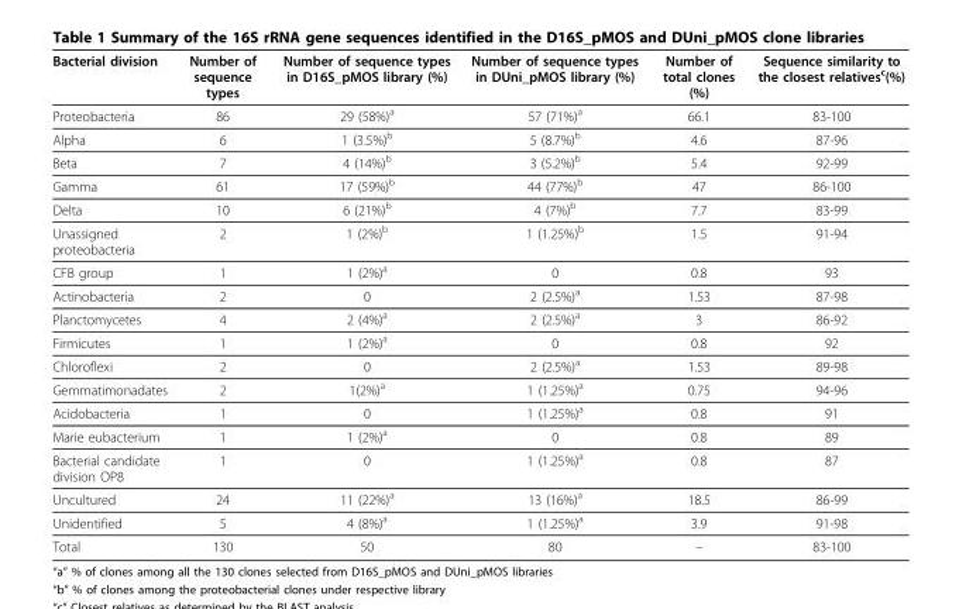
<table><thead><tr><td>Bacterial division</td><td>Number of sequence types</td><td>Number of sequence types in D16S_pMOS library (%)</td><td>Number of sequence types in DUni_pMOS library (%)</td><td>Number of total clones (%)</td><td>Sequence similarity to the closest relatives<sup>c</sup>(%)</td></tr></thead><tbody><tr><td>Proteobacteria</td><td>86</td><td>29 (58%)<sup>a</sup></td><td>57 (71%)<sup>a</sup></td><td>66.1</td><td>83-100</td></tr><tr><td>Alpha</td><td>6</td><td>1 (3.5%)<sup>b</sup></td><td>5 (8.7%)<sup>b</sup></td><td>4.6</td><td>87-96</td></tr><tr><td>Beta</td><td>7</td><td>4 (14%)<sup>b</sup></td><td>3 (5.2%)<sup>b</sup></td><td>5.4</td><td>92-99</td></tr><tr><td>Gamma</td><td>61</td><td>17 (59%)<sup>b</sup></td><td>44 (77%)<sup>b</sup></td><td>47</td><td>86-100</td></tr><tr><td>Delta</td><td>10</td><td>6 (21%)<sup>b</sup></td><td>4 (7%)<sup>b</sup></td><td>7.7</td><td>83-99</td></tr><tr><td>Unassigned proteobacteria</td><td>2</td><td>1 (2%)<sup>b</sup></td><td>1 (1.25%)<sup>b</sup></td><td>1.5</td><td>91-94</td></tr><tr><td>CFB group</td><td>1</td><td>1 (2%)<sup>a</sup></td><td>0</td><td>0.8</td><td>93</td></tr><tr><td>Actinobacteria</td><td>2</td><td>0</td><td>2 (2.5%)<sup>a</sup></td><td>1.53</td><td>87-98</td></tr><tr><td>Planctomycetes</td><td>4</td><td>2 (4%)<sup>a</sup></td><td>2 (2.5%)<sup>a</sup></td><td>3</td><td>86-92</td></tr><tr><td>Firmicutes</td><td>1</td><td>1 (2%)<sup>a</sup></td><td>0</td><td>0.8</td><td>92</td></tr><tr><td>Chloroflexi</td><td>2</td><td>0</td><td>2 (2.5%)<sup>a</sup></td><td>1.53</td><td>89-98</td></tr><tr><td>Gemmatimonadates</td><td>2</td><td>1(2%)<sup>a</sup></td><td>1 (1.25%)<sup>a</sup></td><td>0.75</td><td>94-96</td></tr><tr><td>Acidobacteria</td><td>1</td><td>0</td><td>1 (1.25%)<sup>a</sup></td><td>0.8</td><td>91</td></tr><tr><td>Marie eubacterium</td><td>1</td><td>1 (2%)<sup>a</sup></td><td>0</td><td>0.8</td><td>89</td></tr><tr><td>Bacterial candidate division OP8</td><td>1</td><td>0</td><td>1 (1.25%)<sup>a</sup></td><td>0.8</td><td>87</td></tr><tr><td>Uncultured</td><td>24</td><td>11 (22%)<sup>a</sup></td><td>13 (16%)<sup>a</sup></td><td>18.5</td><td>86-99</td></tr><tr><td>Unidentified</td><td>5</td><td>4 (8%)<sup>a</sup></td><td>1 (1.25%)<sup>a</sup></td><td>3.9</td><td>91-98</td></tr><tr><td>Total</td><td>130</td><td>50</td><td>80</td><td>–</td><td>83-100</td></tr></tbody></table>